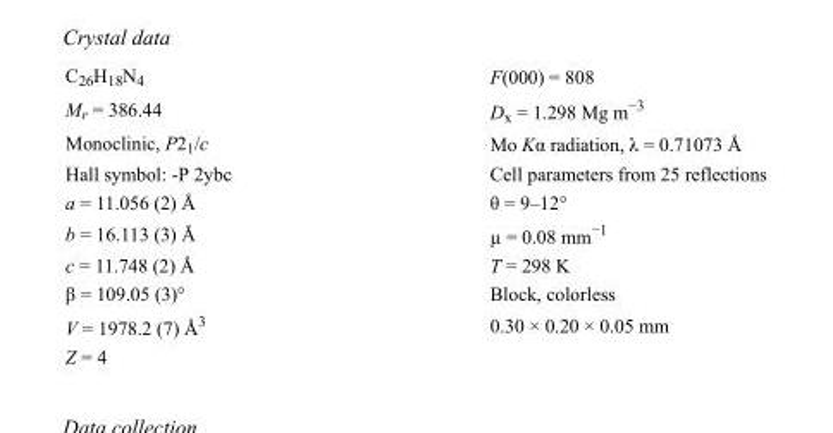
<table><tbody><tr><td>C<sub>26</sub>H<sub>18</sub>N<sub>4</sub></td><td>F(000) = 808</td></tr><tr><td>M<sub>r</sub> = 386.44</td><td>D<sub>x</sub> = 1.298 Mg m<sup>−3</sup></td></tr><tr><td>Monoclinic, P2<sub>1</sub>/c</td><td>Mo Kα radiation, λ = 0.71073 Å</td></tr><tr><td>Hall symbol: -P 2ybc</td><td>Cell parameters from 25 reflections</td></tr><tr><td>a = 11.056 (2) Å</td><td>θ = 9–12°</td></tr><tr><td>b = 16.113 (3) Å</td><td>µ = 0.08 mm<sup>−1</sup></td></tr><tr><td>c = 11.748 (2) Å</td><td>T = 298 K</td></tr><tr><td>β = 109.05 (3)°</td><td>Block, colorless</td></tr><tr><td>V = 1978.2 (7) Å<sup>3</sup></td><td>0.30 × 0.20 × 0.05 mm</td></tr><tr><td>Z = 4</td><td></td></tr></tbody></table>